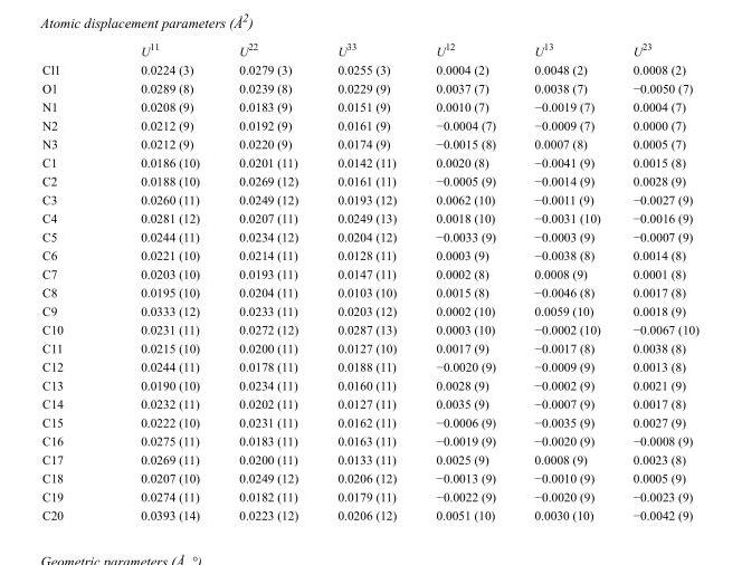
<table><thead><tr><td></td><td>U<sup>11</sup></td><td>U<sup>22</sup></td><td>U<sup>33</sup></td><td>U<sup>12</sup></td><td>U<sup>13</sup></td><td>U<sup>23</sup></td></tr></thead><tbody><tr><td>Cl1</td><td>0.0224 (3)</td><td>0.0279 (3)</td><td>0.0255 (3)</td><td>0.0004 (2)</td><td>0.0048 (2)</td><td>0.0008 (2)</td></tr><tr><td>O1</td><td>0.0289 (8)</td><td>0.0239 (8)</td><td>0.0229 (9)</td><td>0.0037 (7)</td><td>0.0038 (7)</td><td>−0.0050 (7)</td></tr><tr><td>N1</td><td>0.0208 (9)</td><td>0.0183 (9)</td><td>0.0151 (9)</td><td>0.0010 (7)</td><td>−0.0019 (7)</td><td>0.0004 (7)</td></tr><tr><td>N2</td><td>0.0212 (9)</td><td>0.0192 (9)</td><td>0.0161 (9)</td><td>−0.0004 (7)</td><td>−0.0009 (7)</td><td>0.0000 (7)</td></tr><tr><td>N3</td><td>0.0212 (9)</td><td>0.0220 (9)</td><td>0.0174 (9)</td><td>−0.0015 (8)</td><td>0.0007 (8)</td><td>0.0005 (7)</td></tr><tr><td>C1</td><td>0.0186 (10)</td><td>0.0201 (11)</td><td>0.0142 (11)</td><td>0.0020 (8)</td><td>−0.0041 (9)</td><td>0.0015 (8)</td></tr><tr><td>C2</td><td>0.0188 (10)</td><td>0.0269 (12)</td><td>0.0161 (11)</td><td>−0.0005 (9)</td><td>−0.0014 (9)</td><td>0.0028 (9)</td></tr><tr><td>C3</td><td>0.0260 (11)</td><td>0.0249 (12)</td><td>0.0193 (12)</td><td>0.0062 (10)</td><td>−0.0011 (9)</td><td>−0.0027 (9)</td></tr><tr><td>C4</td><td>0.0281 (12)</td><td>0.0207 (11)</td><td>0.0249 (13)</td><td>0.0018 (10)</td><td>−0.0031 (10)</td><td>−0.0016 (9)</td></tr><tr><td>C5</td><td>0.0244 (11)</td><td>0.0234 (12)</td><td>0.0204 (12)</td><td>−0.0033 (9)</td><td>−0.0003 (9)</td><td>−0.0007 (9)</td></tr><tr><td>C6</td><td>0.0221 (10)</td><td>0.0214 (11)</td><td>0.0128 (11)</td><td>0.0003 (9)</td><td>−0.0038 (8)</td><td>0.0014 (8)</td></tr><tr><td>C7</td><td>0.0203 (10)</td><td>0.0193 (11)</td><td>0.0147 (11)</td><td>0.0002 (8)</td><td>0.0008 (9)</td><td>0.0001 (8)</td></tr><tr><td>C8</td><td>0.0195 (10)</td><td>0.0204 (11)</td><td>0.0103 (10)</td><td>0.0015 (8)</td><td>−0.0046 (8)</td><td>0.0017 (8)</td></tr><tr><td>C9</td><td>0.0333 (12)</td><td>0.0233 (11)</td><td>0.0203 (12)</td><td>0.0002 (10)</td><td>0.0059 (10)</td><td>0.0018 (9)</td></tr><tr><td>C10</td><td>0.0231 (11)</td><td>0.0272 (12)</td><td>0.0287 (13)</td><td>0.0003 (10)</td><td>−0.0002 (10)</td><td>−0.0067 (10)</td></tr><tr><td>C11</td><td>0.0215 (10)</td><td>0.0200 (11)</td><td>0.0127 (10)</td><td>0.0017 (9)</td><td>−0.0017 (8)</td><td>0.0038 (8)</td></tr><tr><td>C12</td><td>0.0244 (11)</td><td>0.0178 (11)</td><td>0.0188 (11)</td><td>−0.0020 (9)</td><td>−0.0009 (9)</td><td>0.0013 (8)</td></tr><tr><td>C13</td><td>0.0190 (10)</td><td>0.0234 (11)</td><td>0.0160 (11)</td><td>0.0028 (9)</td><td>−0.0002 (9)</td><td>0.0021 (9)</td></tr><tr><td>C14</td><td>0.0232 (11)</td><td>0.0202 (11)</td><td>0.0127 (11)</td><td>0.0035 (9)</td><td>−0.0007 (9)</td><td>0.0017 (8)</td></tr><tr><td>C15</td><td>0.0222 (10)</td><td>0.0231 (11)</td><td>0.0162 (11)</td><td>−0.0006 (9)</td><td>−0.0035 (9)</td><td>0.0027 (9)</td></tr><tr><td>C16</td><td>0.0275 (11)</td><td>0.0183 (11)</td><td>0.0163 (11)</td><td>−0.0019 (9)</td><td>−0.0020 (9)</td><td>−0.0008 (9)</td></tr><tr><td>C17</td><td>0.0269 (11)</td><td>0.0200 (11)</td><td>0.0133 (11)</td><td>0.0025 (9)</td><td>0.0008 (9)</td><td>0.0023 (8)</td></tr><tr><td>C18</td><td>0.0207 (10)</td><td>0.0249 (12)</td><td>0.0206 (12)</td><td>−0.0013 (9)</td><td>−0.0010 (9)</td><td>0.0005 (9)</td></tr><tr><td>C19</td><td>0.0274 (11)</td><td>0.0182 (11)</td><td>0.0179 (11)</td><td>−0.0022 (9)</td><td>−0.0020 (9)</td><td>−0.0023 (9)</td></tr><tr><td>C20</td><td>0.0393 (14)</td><td>0.0223 (12)</td><td>0.0206 (12)</td><td>0.0051 (10)</td><td>0.0030 (10)</td><td>−0.0042 (9)</td></tr></tbody></table>